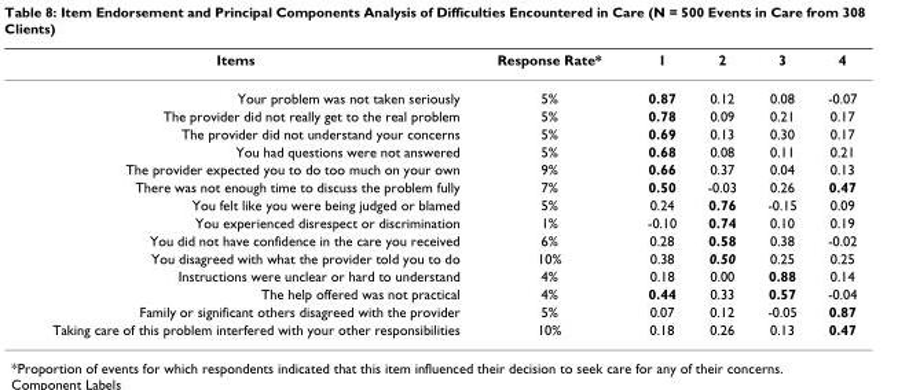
<table><thead><tr><td>Items</td><td>Response Rate*</td><td>1</td><td>2</td><td>3</td><td>4</td></tr></thead><tbody><tr><td>Your problem was not taken seriously</td><td>5%</td><td>0.87</td><td>0.12</td><td>0.08</td><td>-0.07</td></tr><tr><td>The provider did not really get to the real problem</td><td>5%</td><td>0.78</td><td>0.09</td><td>0.21</td><td>0.17</td></tr><tr><td>The provider did not understand your concerns</td><td>5%</td><td>0.69</td><td>0.13</td><td>0.30</td><td>0.17</td></tr><tr><td>You had questions were not answered</td><td>5%</td><td>0.68</td><td>0.08</td><td>0.11</td><td>0.21</td></tr><tr><td>The provider expected you to do too much on your own</td><td>9%</td><td>0.66</td><td>0.37</td><td>0.04</td><td>0.13</td></tr><tr><td>There was not enough time to discuss the problem fully</td><td>7%</td><td>0.50</td><td>-0.03</td><td>0.26</td><td>0.47</td></tr><tr><td>You felt like you were being judged or blamed</td><td>5%</td><td>0.24</td><td>0.76</td><td>-0.15</td><td>0.09</td></tr><tr><td>You experienced disrespect or discrimination</td><td>1%</td><td>-0.10</td><td>0.74</td><td>0.10</td><td>0.19</td></tr><tr><td>You did not have confidence in the care you received</td><td>6%</td><td>0.28</td><td>0.58</td><td>0.38</td><td>-0.02</td></tr><tr><td>You disagreed with what the provider told you to do</td><td>10%</td><td>0.38</td><td>0.50</td><td>0.25</td><td>0.25</td></tr><tr><td>Instructions were unclear or hard to understand</td><td>4%</td><td>0.18</td><td>0.00</td><td>0.88</td><td>0.14</td></tr><tr><td>The help offered was not practical</td><td>4%</td><td>0.44</td><td>0.33</td><td>0.57</td><td>-0.04</td></tr><tr><td>Family or significant others disagreed with the provider</td><td>5%</td><td>0.07</td><td>0.12</td><td>-0.05</td><td>0.87</td></tr><tr><td>Taking care of this problem interfered with your other responsibilities</td><td>10%</td><td>0.18</td><td>0.26</td><td>0.13</td><td>0.47</td></tr></tbody></table>